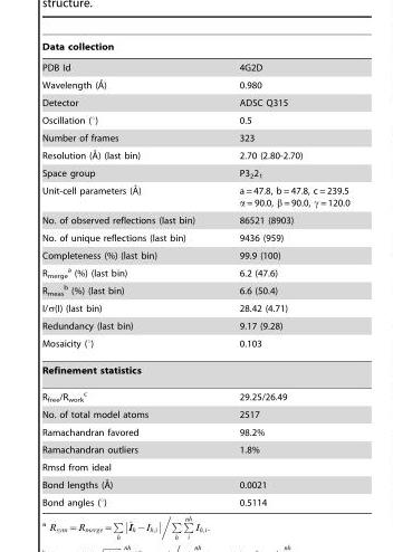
<table><thead><tr><td colspan="2">Data collection</td></tr><tr><td>PDB Id</td><td>4G2D</td></tr></thead><tbody><tr><td>Wavelength (A˚)</td><td>0.980</td></tr><tr><td>Detector</td><td>ADSC Q315</td></tr><tr><td>Oscillation (°)</td><td>0.5</td></tr><tr><td>Number of frames</td><td>323</td></tr><tr><td>Resolution (A˚) (last bin)</td><td>2.70 (2.80-2.70)</td></tr><tr><td>Space group</td><td>P3<sub>2</sub>2<sub>1</sub></td></tr><tr><td>Unit-cell parameters (A˚)</td><td>a = 47.8, b = 47.8, c = 239.5 α = 90.0, β = 90.0, γ = 120.0</td></tr><tr><td>No. of observed reflections (last bin)</td><td>86521 (8903)</td></tr><tr><td>No. of unique reflections (last bin)</td><td>9436 (959)</td></tr><tr><td>Completeness (%) (last bin)</td><td>99.9 (100)</td></tr><tr><td>R<sub>merge</sub> <sup>a</sup> (%) (last bin)</td><td>6.2 (47.6)</td></tr><tr><td>R<sub>meas</sub> <sup>b</sup> (%) (last bin)</td><td>6.6 (50.4)</td></tr><tr><td>I/σ(I) (last bin)</td><td>28.42 (4.71)</td></tr><tr><td>Redundancy (last bin)</td><td>9.17 (9.28)</td></tr><tr><td>Mosaicity (°)</td><td>0.103</td></tr><tr><td colspan="2">Refinement statistics</td></tr><tr><td>R<sub>free</sub>/R<sub>work</sub> c</td><td>29.25/26.49</td></tr><tr><td>No. of total model atoms</td><td>2517</td></tr><tr><td>Ramachandran favored</td><td>98.2%</td></tr><tr><td>Ramachandran outliers</td><td>1.8%</td></tr><tr><td colspan="2">Rmsd from ideal</td></tr><tr><td>Bond lengths (A˚)</td><td>0.0021</td></tr><tr><td>Bond angles (°)</td><td>0.5114</td></tr></tbody></table>